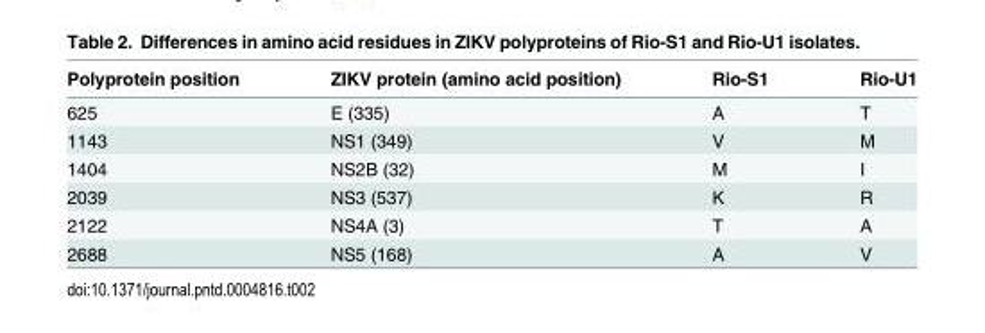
<table><thead><tr><td>Polyprotein position</td><td>ZIKV protein (amino acid position)</td><td>Rio-S1</td><td>Rio-U1</td></tr></thead><tbody><tr><td>625</td><td>E (335)</td><td>A</td><td>T</td></tr><tr><td>1143</td><td>NS1 (349)</td><td>V</td><td>M</td></tr><tr><td>1404</td><td>NS2B (32)</td><td>M</td><td>I</td></tr><tr><td>2039</td><td>NS3 (537)</td><td>K</td><td>R</td></tr><tr><td>2122</td><td>NS4A (3)</td><td>T</td><td>A</td></tr><tr><td>2688</td><td>NS5 (168)</td><td>A</td><td>V</td></tr></tbody></table>